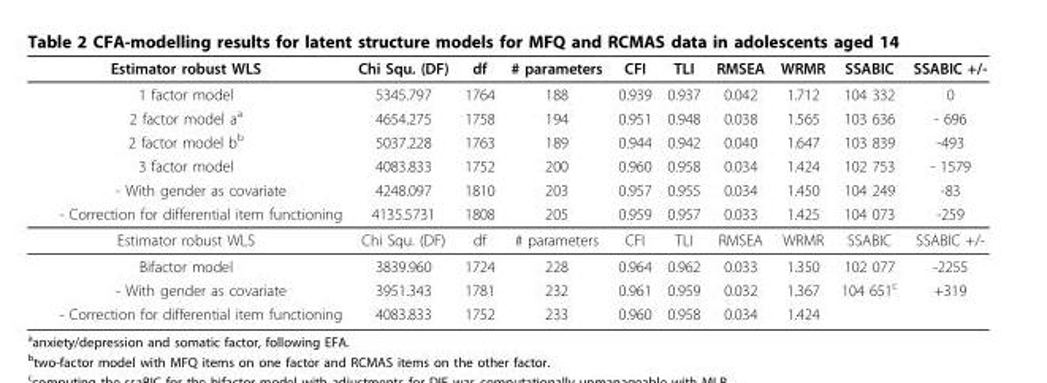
<table><thead><tr><td>Estimator robust WLS</td><td>Chi Squ. (DF)</td><td>df</td><td># parameters</td><td>CFI</td><td>TLI</td><td>RMSEA</td><td>WRMR</td><td>SSABIC</td><td>SSABIC +/-</td></tr></thead><tbody><tr><td>1 factor model</td><td>5345.797</td><td>1764</td><td>188</td><td>0.939</td><td>0.937</td><td>0.042</td><td>1.712</td><td>104 332</td><td>0</td></tr><tr><td>2 factor model a<sup>a</sup></td><td>4654.275</td><td>1758</td><td>194</td><td>0.951</td><td>0.948</td><td>0.038</td><td>1.565</td><td>103 636</td><td>- 696</td></tr><tr><td>2 factor model b<sup>b</sup></td><td>5037.228</td><td>1763</td><td>189</td><td>0.944</td><td>0.942</td><td>0.040</td><td>1.647</td><td>103 839</td><td>-493</td></tr><tr><td>3 factor model</td><td>4083.833</td><td>1752</td><td>200</td><td>0.960</td><td>0.958</td><td>0.034</td><td>1.424</td><td>102 753</td><td>- 1579</td></tr><tr><td>- With gender as covariate</td><td>4248.097</td><td>1810</td><td>203</td><td>0.957</td><td>0.955</td><td>0.034</td><td>1.450</td><td>104 249</td><td>-83</td></tr><tr><td>- Correction for differential item functioning</td><td>4135.5731</td><td>1808</td><td>205</td><td>0.959</td><td>0.957</td><td>0.033</td><td>1.425</td><td>104 073</td><td>-259</td></tr><tr><td>Estimator robust WLS</td><td>Chi Squ. (DF)</td><td>df</td><td># parameters</td><td>CFI</td><td>TLI</td><td>RMSEA</td><td>WRMR</td><td>SSABIC</td><td>SSABIC +/-</td></tr><tr><td>Bifactor model</td><td>3839.960</td><td>1724</td><td>228</td><td>0.964</td><td>0.962</td><td>0.033</td><td>1.350</td><td>102 077</td><td>-2255</td></tr><tr><td>- With gender as covariate</td><td>3951.343</td><td>1781</td><td>232</td><td>0.961</td><td>0.959</td><td>0.032</td><td>1.367</td><td>104 651<sup>c</sup></td><td>+319</td></tr><tr><td>- Correction for differential item functioning</td><td>4083.833</td><td>1752</td><td>233</td><td>0.960</td><td>0.958</td><td>0.034</td><td>1.424</td><td></td><td></td></tr></tbody></table>